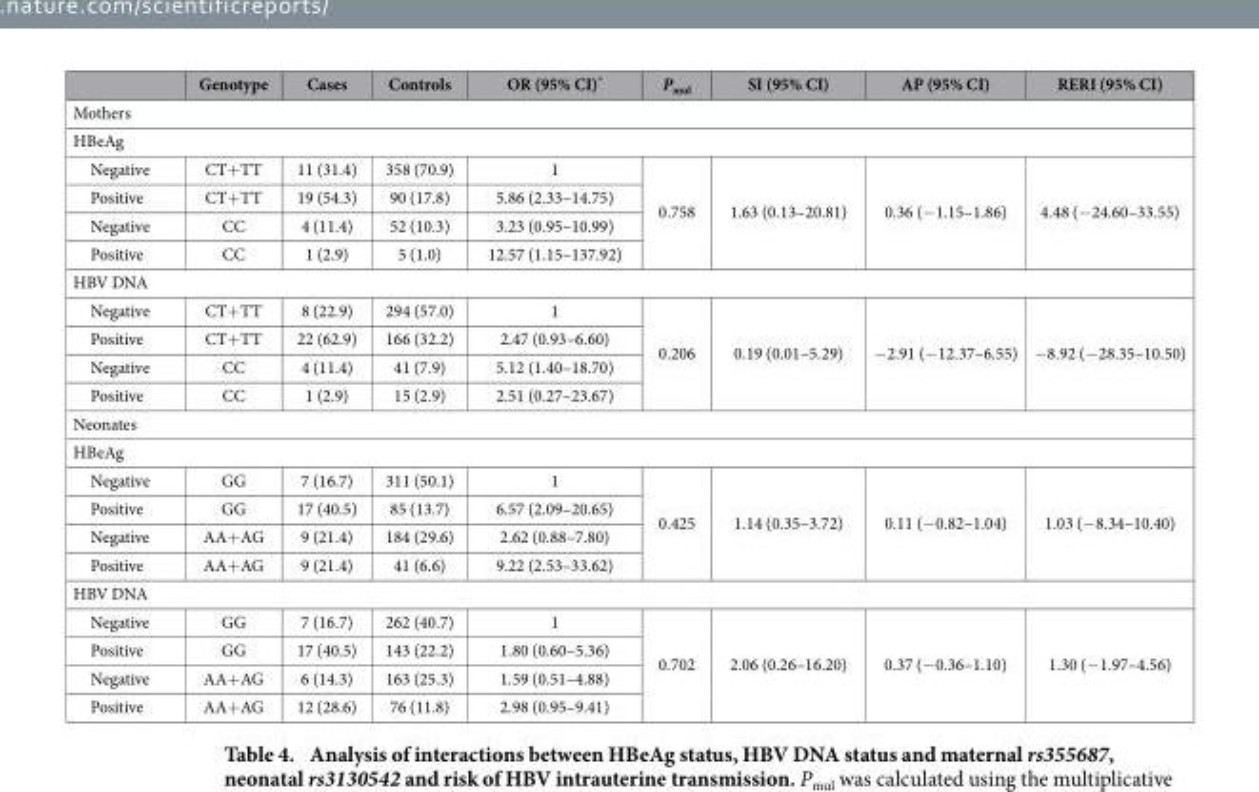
<table><thead><tr><td></td><td>Genotype</td><td>Cases</td><td>Controls</td><td>OR (95% CI)*</td><td>P<sub>mul</sub></td><td>SI (95% CI)</td><td>AP (95% CI)</td><td>RERI (95% CI)</td></tr></thead><tbody><tr><td colspan="9">Mothers</td></tr><tr><td colspan="9">HBeAg</td></tr><tr><td>Negative</td><td>CT+ TT</td><td>11 (31.4)</td><td>358 (70.9)</td><td>1</td><td rowspan="4">0.758</td><td rowspan="4">1.63 (0.13–20.81)</td><td rowspan="4">0.36 (− 1.15–1.86)</td><td rowspan="4">4.48 (− 24.60–33.55)</td></tr><tr><td>Positive</td><td>CT+ TT</td><td>19 (54.3)</td><td>90 (17.8)</td><td>5.86 (2.33–14.75)</td></tr><tr><td>Negative</td><td>CC</td><td>4 (11.4)</td><td>52 (10.3)</td><td>3.23 (0.95–10.99)</td></tr><tr><td>Positive</td><td>CC</td><td>1 (2.9)</td><td>5 (1.0)</td><td>12.57 (1.15–137.92)</td></tr><tr><td colspan="9">HBV DNA</td></tr><tr><td>Negative</td><td>CT+ TT</td><td>8 (22.9)</td><td>294 (57.0)</td><td>1</td><td rowspan="4">0.206</td><td rowspan="4">0.19 (0.01–5.29)</td><td rowspan="4">− 2.91 (− 12.37–6.55)</td><td rowspan="4">− 8.92 (− 28.35–10.50)</td></tr><tr><td>Positive</td><td>CT+ TT</td><td>22 (62.9)</td><td>166 (32.2)</td><td>2.47 (0.93–6.60)</td></tr><tr><td>Negative</td><td>CC</td><td>4 (11.4)</td><td>41 (7.9)</td><td>5.12 (1.40–18.70)</td></tr><tr><td>Positive</td><td>CC</td><td>1 (2.9)</td><td>15 (2.9)</td><td>2.51 (0.27–23.67)</td></tr><tr><td colspan="9">Neonates</td></tr><tr><td colspan="9">HBeAg</td></tr><tr><td>Negative</td><td>GG</td><td>7 (16.7)</td><td>311 (50.1)</td><td>1</td><td rowspan="4">0.425</td><td rowspan="4">1.14 (0.35–3.72)</td><td rowspan="4">0.11 (− 0.82–1.04)</td><td rowspan="4">1.03 (− 8.34–10.40)</td></tr><tr><td>Positive</td><td>GG</td><td>17 (40.5)</td><td>85 (13.7)</td><td>6.57 (2.09–20.65)</td></tr><tr><td>Negative</td><td>AA+ AG</td><td>9 (21.4)</td><td>184 (29.6)</td><td>2.62 (0.88–7.80)</td></tr><tr><td>Positive</td><td>AA+ AG</td><td>9 (21.4)</td><td>41 (6.6)</td><td>9.22 (2.53–33.62)</td></tr><tr><td colspan="9">HBV DNA</td></tr><tr><td>Negative</td><td>GG</td><td>7 (16.7)</td><td>262 (40.7)</td><td>1</td><td rowspan="4">0.702</td><td rowspan="4">2.06 (0.26–16.20)</td><td rowspan="4">0.37 (− 0.36–1.10)</td><td rowspan="4">1.30 (− 1.97–4.56)</td></tr><tr><td>Positive</td><td>GG</td><td>17 (40.5)</td><td>143 (22.2)</td><td>1.80 (0.60–5.36)</td></tr><tr><td>Negative</td><td>AA+ AG</td><td>6 (14.3)</td><td>163 (25.3)</td><td>1.59 (0.51–4.88)</td></tr><tr><td>Positive</td><td>AA+ AG</td><td>12 (28.6)</td><td>76 (11.8)</td><td>2.98 (0.95–9.41)</td></tr></tbody></table>